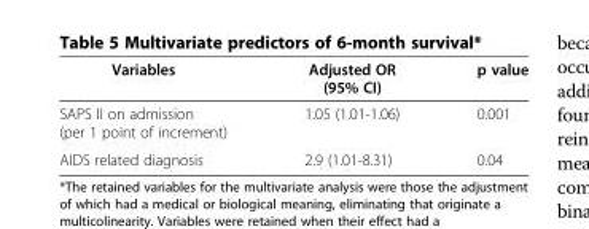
<table><thead><tr><td>Variables</td><td>Adjusted OR (95% CI)</td><td>p value</td></tr></thead><tbody><tr><td>SAPS II on admission (per 1 point of increment)</td><td>1.05 (1.01-1.06)</td><td>0.001</td></tr><tr><td>AIDS related diagnosis</td><td>2.9 (1.01-8.31)</td><td>0.04</td></tr></tbody></table>